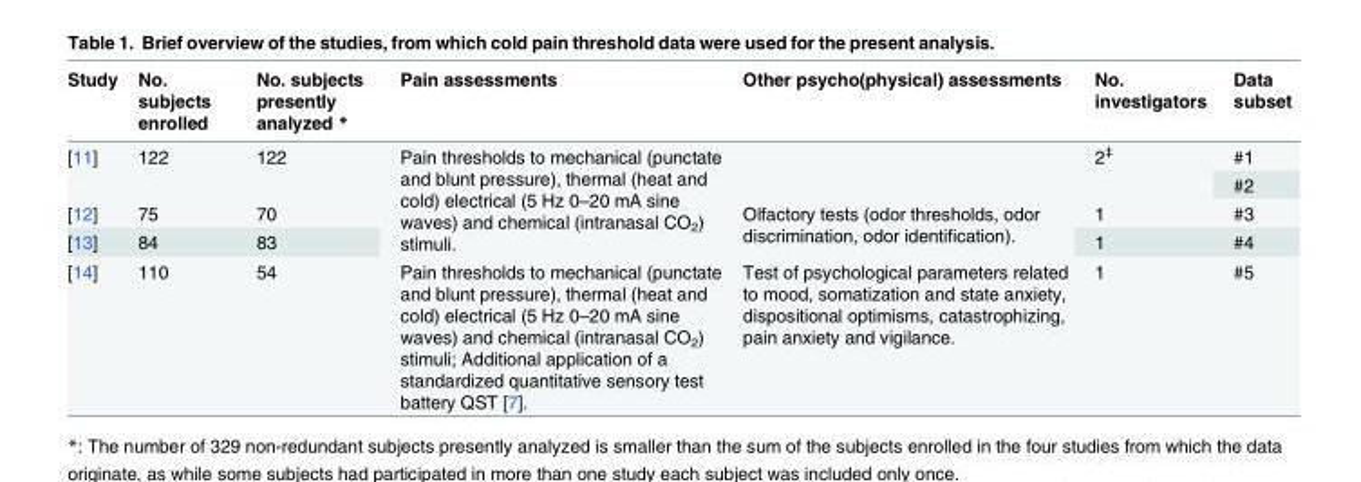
<table><thead><tr><td>Study</td><td>No. subjects enrolled</td><td>No. subjects presently analyzed *</td><td>Pain assessments</td><td>Other psycho(physical) assessments</td><td>No. investigators</td><td>Data subset</td></tr></thead><tbody><tr><td rowspan="2">[11]</td><td rowspan="2">122</td><td rowspan="2">122</td><td rowspan="4">Pain thresholds to mechanical (punctate and blunt pressure), thermal (heat and cold) electrical (5 Hz 0–20 mA sine waves) and chemical (intranasal CO<sub>2</sub>) stimuli.</td><td rowspan="2"></td><td rowspan="2">2<sup>‡</sup></td><td>#1</td></tr><tr><td>#2</td></tr><tr><td>[12]</td><td>75</td><td>70</td><td rowspan="2">Olfactory tests (odor thresholds, odor discrimination, odor identification).</td><td>1</td><td>#3</td></tr><tr><td>[13]</td><td>84</td><td>83</td><td>1</td><td>#4</td></tr><tr><td>[14]</td><td>110</td><td>54</td><td>Pain thresholds to mechanical (punctate and blunt pressure), thermal (heat and cold) electrical (5 Hz 0–20 mA sine waves) and chemical (intranasal CO<sub>2</sub>) stimuli; Additional application of a standardized quantitative sensory test battery QST [7].</td><td>Test of psychological parameters related to mood, somatization and state anxiety, dispositional optimisms, catastrophizing, pain anxiety and vigilance.</td><td>1</td><td>#5</td></tr></tbody></table>